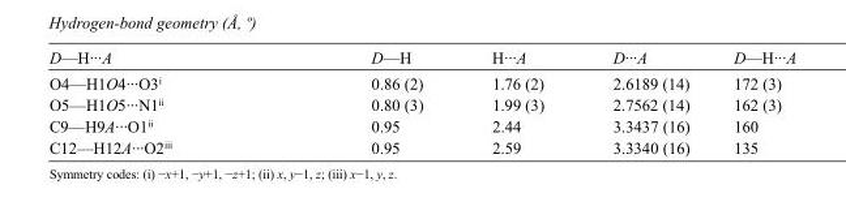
<table><tbody><tr><td>D—H···A</td><td>D—H</td><td>H···A</td><td>D···A</td><td>D—H···A</td></tr><tr><td>O4—H1O4···O3<sup>i</sup></td><td>0.86 (2)</td><td>1.76 (2)</td><td>2.6189 (14)</td><td>172 (3)</td></tr><tr><td>O5—H1O5···N1<sup>ii</sup></td><td>0.80 (3)</td><td>1.99 (3)</td><td>2.7562 (14)</td><td>162 (3)</td></tr><tr><td>C9—H9A···O1<sup>ii</sup></td><td>0.95</td><td>2.44</td><td>3.3437 (16)</td><td>160</td></tr><tr><td>C12—H12A···O2<sup>iii</sup></td><td>0.95</td><td>2.59</td><td>3.3340 (16)</td><td>135</td></tr></tbody></table>